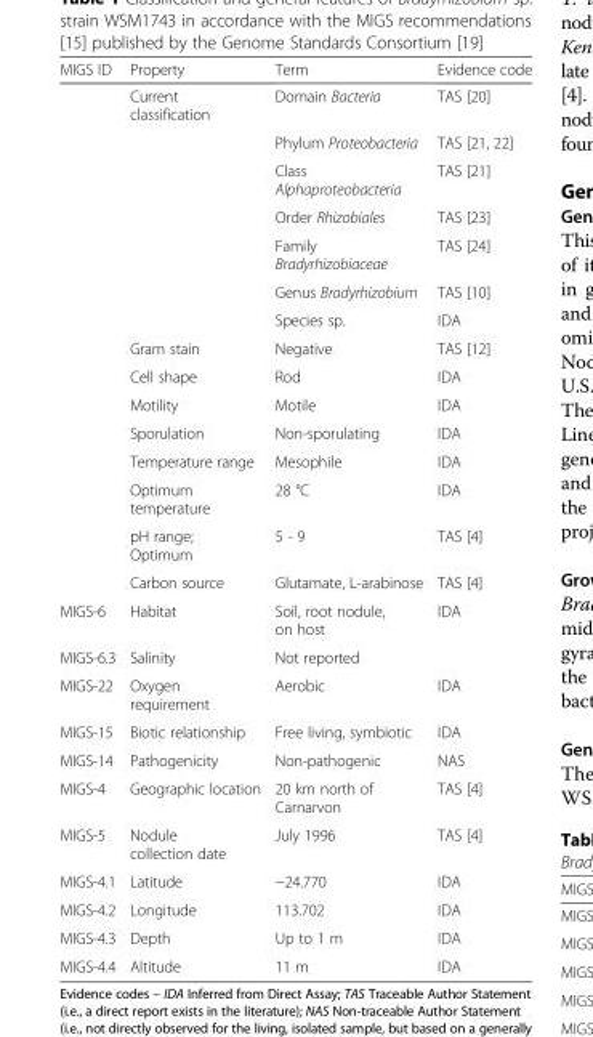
<table><thead><tr><td>MIGS ID</td><td>Property</td><td>Term</td><td>Evidence code</td></tr></thead><tbody><tr><td></td><td>Current classification</td><td>Domain Bacteria</td><td>TAS [20]</td></tr><tr><td></td><td></td><td>Phylum Proteobacteria</td><td>TAS [21, 22]</td></tr><tr><td></td><td></td><td>Class Alphaproteobacteria</td><td>TAS [21]</td></tr><tr><td></td><td></td><td>Order Rhizobiales</td><td>TAS [23]</td></tr><tr><td></td><td></td><td>Family Bradyrhizobiaceae</td><td>TAS [24]</td></tr><tr><td></td><td></td><td>Genus Bradyrhizobium</td><td>TAS [10]</td></tr><tr><td></td><td></td><td>Species sp.</td><td>IDA</td></tr><tr><td></td><td>Gram stain</td><td>Negative</td><td>TAS [12]</td></tr><tr><td></td><td>Cell shape</td><td>Rod</td><td>IDA</td></tr><tr><td></td><td>Motility</td><td>Motile</td><td>IDA</td></tr><tr><td></td><td>Sporulation</td><td>Non-sporulating</td><td>IDA</td></tr><tr><td></td><td>Temperature range</td><td>Mesophile</td><td>IDA</td></tr><tr><td></td><td>Optimum temperature</td><td>28 °C</td><td>IDA</td></tr><tr><td></td><td>pH range; Optimum</td><td>5 - 9</td><td>TAS [4]</td></tr><tr><td></td><td>Carbon source</td><td>Glutamate, L-arabinose</td><td>TAS [4]</td></tr><tr><td>MIGS-6</td><td>Habitat</td><td>Soil, root nodule, on host</td><td>IDA</td></tr><tr><td>MIGS-6.3</td><td>Salinity</td><td>Not reported</td><td></td></tr><tr><td>MIGS-22</td><td>Oxygen requirement</td><td>Aerobic</td><td>IDA</td></tr><tr><td>MIGS-15</td><td>Biotic relationship</td><td>Free living, symbiotic</td><td>IDA</td></tr><tr><td>MIGS-14</td><td>Pathogenicity</td><td>Non-pathogenic</td><td>NAS</td></tr><tr><td>MIGS-4</td><td>Geographic location</td><td>20 km north of Carnarvon</td><td>TAS [4]</td></tr><tr><td>MIGS-5</td><td>Nodule collection date</td><td>July 1996</td><td>TAS [4]</td></tr><tr><td>MIGS-4.1</td><td>Latitude</td><td>−24.770</td><td>IDA</td></tr><tr><td>MIGS-4.2</td><td>Longitude</td><td>113.702</td><td>IDA</td></tr><tr><td>MIGS-4.3</td><td>Depth</td><td>Up to 1 m</td><td>IDA</td></tr><tr><td>MIGS-4.4</td><td>Altitude</td><td>11 m</td><td>IDA</td></tr></tbody></table>